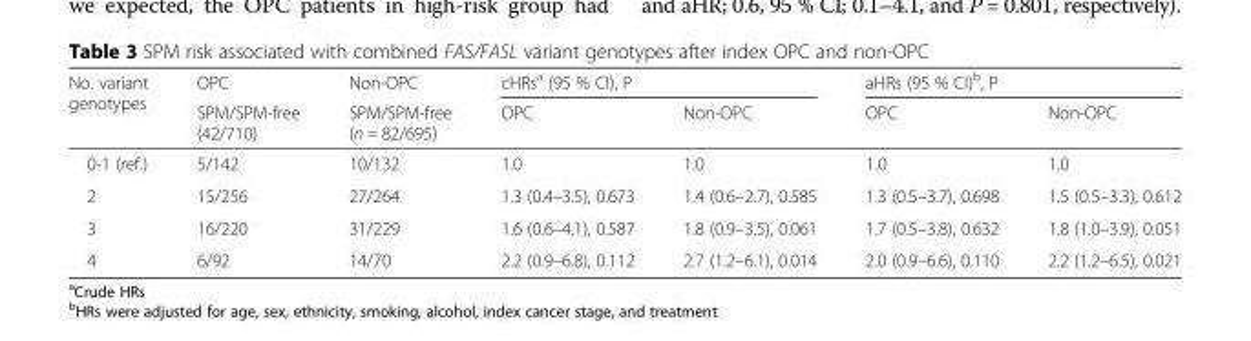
<table><thead><tr><td rowspan="2">No. variant genotypes</td><td rowspan="2">OPC SPM/SPM-free (42/710)</td><td rowspan="2">Non-OPC SPM/SPM-free (n = 82/695)</td><td colspan="2">cHRs<sup>a</sup> (95 % CI), P</td><td colspan="2">aHRs (95 % CI)<sup>b</sup>, P</td></tr><tr><td>OPC</td><td>Non-OPC</td><td>OPC</td><td>Non-OPC</td></tr></thead><tbody><tr><td>0-1 (ref.)</td><td>5/142</td><td>10/132</td><td>1.0</td><td>1.0</td><td>1.0</td><td>1.0</td></tr><tr><td>2</td><td>15/256</td><td>27/264</td><td>1.3 (0.4–3.5), 0.673</td><td>1.4 (0.6–2.7), 0.585</td><td>1.3 (0.5–3.7), 0.698</td><td>1.5 (0.5–3.3), 0.612</td></tr><tr><td>3</td><td>16/220</td><td>31/229</td><td>1.6 (0.6–4.1), 0.587</td><td>1.8 (0.9–3.5), 0.061</td><td>1.7 (0.5–3.8), 0.632</td><td>1.8 (1.0–3.9), 0.051</td></tr><tr><td>4</td><td>6/92</td><td>14/70</td><td>2.2 (0.9–6.8), 0.112</td><td>2.7 (1.2–6.1), 0.014</td><td>2.0 (0.9–6.6), 0.110</td><td>2.2 (1.2–6.5), 0.021</td></tr></tbody></table>